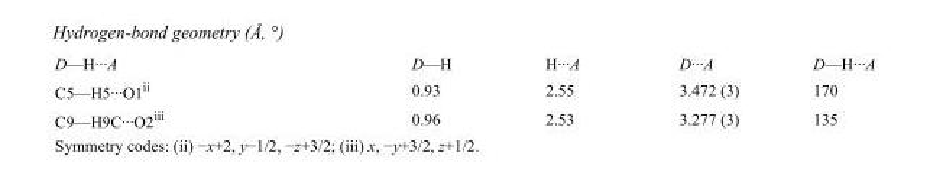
<table><tbody><tr><td>D—H···A</td><td>D—H</td><td>H···A</td><td>D···A</td><td>D—H···A</td></tr><tr><td>C5—H5···O1<sup>ii</sup></td><td>0.93</td><td>2.55</td><td>3.472 (3)</td><td>170</td></tr><tr><td>C9—H9C···O2<sup>iii</sup></td><td>0.96</td><td>2.53</td><td>3.277 (3)</td><td>135</td></tr></tbody></table>